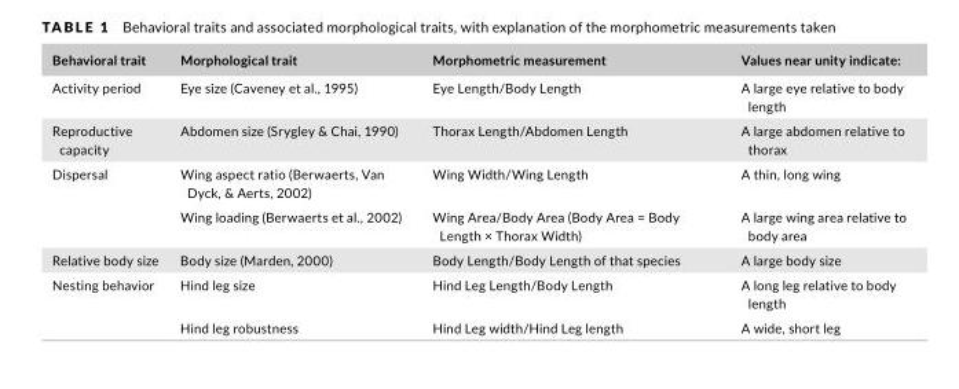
<table><thead><tr><td>Behavioral trait</td><td>Morphological trait</td><td>Morphometric measurement</td><td>Values near unity indicate:</td></tr></thead><tbody><tr><td>Activity period</td><td>Eye size (Caveney et al., 1995)</td><td>Eye Length/Body Length</td><td>A large eye relative to body length</td></tr><tr><td>Reproductive capacity</td><td>Abdomen size (Srygley &amp; Chai, 1990)</td><td>Thorax Length/Abdomen Length</td><td>A large abdomen relative to thorax</td></tr><tr><td rowspan="2">Dispersal</td><td>Wing aspect ratio (Berwaerts, Van Dyck, &amp; Aerts, 2002)</td><td>Wing Width/Wing Length</td><td>A thin, long wing</td></tr><tr><td>Wing loading (Berwaerts et al., 2002)</td><td>Wing Area/Body Area (Body Area = Body Length × Thorax Width)</td><td>A large wing area relative to body area</td></tr><tr><td>Relative body size</td><td>Body size (Marden, 2000)</td><td>Body Length/Body Length of that species</td><td>A large body size</td></tr><tr><td rowspan="2">Nesting behavior</td><td>Hind leg size</td><td>Hind Leg Length/Body Length</td><td>A long leg relative to body length</td></tr><tr><td>Hind leg robustness</td><td>Hind Leg width/Hind Leg length</td><td>A wide, short leg</td></tr></tbody></table>